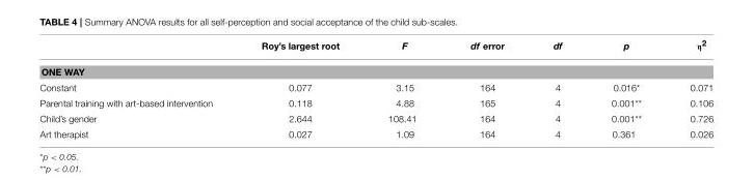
<table><thead><tr><td></td><td>Roy’s largest root</td><td>F</td><td>df error</td><td>df</td><td>p</td><td>η<sup>2</sup></td></tr></thead><tbody><tr><td colspan="7">ONE WAY</td></tr><tr><td>Constant</td><td>0.077</td><td>3.15</td><td>164</td><td>4</td><td>0.016*</td><td>0.071</td></tr><tr><td>Parental training with art-based intervention</td><td>0.118</td><td>4.88</td><td>165</td><td>4</td><td>0.001**</td><td>0.106</td></tr><tr><td>Child’s gender</td><td>2.644</td><td>108.41</td><td>164</td><td>4</td><td>0.001**</td><td>0.726</td></tr><tr><td>Art therapist</td><td>0.027</td><td>1.09</td><td>164</td><td>4</td><td>0.361</td><td>0.026</td></tr></tbody></table>